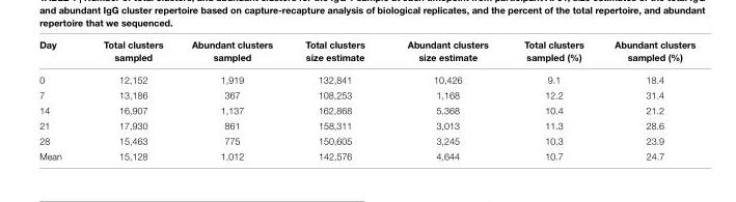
<table><thead><tr><td>Day</td><td>Total clusters sampled</td><td>abundant clusters sampled</td><td>Total clusters size estimate</td><td>abundant clusters size estimate</td><td>Total clusters sampled (%)</td><td>abundant clusters sampled (%)</td></tr></thead><tbody><tr><td>0</td><td>12,152</td><td>1,919</td><td>132,841</td><td>10,426</td><td>9.1</td><td>18.4</td></tr><tr><td>7</td><td>13,186</td><td>367</td><td>108,253</td><td>1,168</td><td>12.2</td><td>31.4</td></tr><tr><td>14</td><td>16,907</td><td>1,137</td><td>162,868</td><td>5,368</td><td>10.4</td><td>21.2</td></tr><tr><td>21</td><td>17,930</td><td>861</td><td>158,311</td><td>3,013</td><td>11.3</td><td>28.6</td></tr><tr><td>28</td><td>15,463</td><td>775</td><td>150,605</td><td>3,245</td><td>10.3</td><td>23.9</td></tr><tr><td>Mean</td><td>15,128</td><td>1,012</td><td>142,576</td><td>4,644</td><td>10.7</td><td>24.7</td></tr></tbody></table>